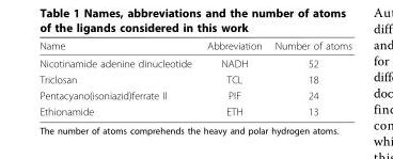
<table><thead><tr><td>Name</td><td>Abbreviation</td><td>Number of atoms</td></tr></thead><tbody><tr><td>Nicotinamide adenine dinucleotide</td><td>NADH</td><td>52</td></tr><tr><td>Triclosan</td><td>TCL</td><td>18</td></tr><tr><td>Pentacyano(isoniazid)ferrate II</td><td>PIF</td><td>24</td></tr><tr><td>Ethionamide</td><td>ETH</td><td>13</td></tr></tbody></table>